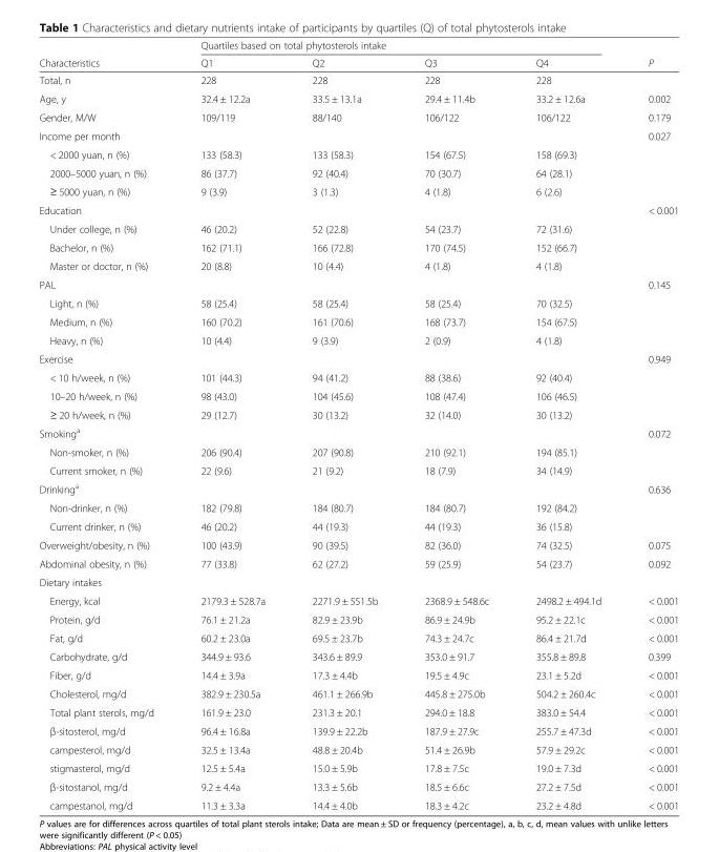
<table><thead><tr><td rowspan="2">Characteristics</td><td colspan="4">Quartiles based on total phytosterols intake</td><td rowspan="2">P</td></tr><tr><td>Q1</td><td>Q2</td><td>Q3</td><td>Q4</td></tr></thead><tbody><tr><td>Total, n</td><td>228</td><td>228</td><td>228</td><td>228</td><td></td></tr><tr><td>Age, y</td><td>32.4 ± 12.2a</td><td>33.5 ± 13.1a</td><td>29.4 ± 11.4b</td><td>33.2 ± 12.6a</td><td>0.002</td></tr><tr><td>Gender, M/W</td><td>109/119</td><td>88/140</td><td>106/122</td><td>106/122</td><td>0.179</td></tr><tr><td>Income per month</td><td></td><td></td><td></td><td></td><td>0.027</td></tr><tr><td>&lt; 2000 yuan, n (%)</td><td>133 (58.3)</td><td>133 (58.3)</td><td>154 (67.5)</td><td>158 (69.3)</td><td></td></tr><tr><td>2000–5000 yuan, n (%)</td><td>86 (37.7)</td><td>92 (40.4)</td><td>70 (30.7)</td><td>64 (28.1)</td><td></td></tr><tr><td>≥ 5000 yuan, n (%)</td><td>9 (3.9)</td><td>3 (1.3)</td><td>4 (1.8)</td><td>6 (2.6)</td><td></td></tr><tr><td>Education</td><td></td><td></td><td></td><td></td><td>&lt; 0.001</td></tr><tr><td>Under college, n (%)</td><td>46 (20.2)</td><td>52 (22.8)</td><td>54 (23.7)</td><td>72 (31.6)</td><td></td></tr><tr><td>Bachelor, n (%)</td><td>162 (71.1)</td><td>166 (72.8)</td><td>170 (74.5)</td><td>152 (66.7)</td><td></td></tr><tr><td>Master or doctor, n (%)</td><td>20 (8.8)</td><td>10 (4.4)</td><td>4 (1.8)</td><td>4 (1.8)</td><td></td></tr><tr><td>PAL</td><td></td><td></td><td></td><td></td><td>0.145</td></tr><tr><td>Light, n (%)</td><td>58 (25.4)</td><td>58 (25.4)</td><td>58 (25.4)</td><td>70 (32.5)</td><td></td></tr><tr><td>Medium, n (%)</td><td>160 (70.2)</td><td>161 (70.6)</td><td>168 (73.7)</td><td>154 (67.5)</td><td></td></tr><tr><td>Heavy, n (%)</td><td>10 (4.4)</td><td>9 (3.9)</td><td>2 (0.9)</td><td>4 (1.8)</td><td></td></tr><tr><td>Exercise</td><td></td><td></td><td></td><td></td><td>0.949</td></tr><tr><td>&lt; 10 h/week, n (%)</td><td>101 (44.3)</td><td>94 (41.2)</td><td>88 (38.6)</td><td>92 (40.4)</td><td></td></tr><tr><td>10–20 h/week, n (%)</td><td>98 (43.0)</td><td>104 (45.6)</td><td>108 (47.4)</td><td>106 (46.5)</td><td></td></tr><tr><td>≥ 20 h/week, n (%)</td><td>29 (12.7)</td><td>30 (13.2)</td><td>32 (14.0)</td><td>30 (13.2)</td><td></td></tr><tr><td>Smoking<sup>a</sup></td><td></td><td></td><td></td><td></td><td>0.072</td></tr><tr><td>Non-smoker, n (%)</td><td>206 (90.4)</td><td>207 (90.8)</td><td>210 (92.1)</td><td>194 (85.1)</td><td></td></tr><tr><td>Current smoker, n (%)</td><td>22 (9.6)</td><td>21 (9.2)</td><td>18 (7.9)</td><td>34 (14.9)</td><td></td></tr><tr><td>Drinking<sup>a</sup></td><td></td><td></td><td></td><td></td><td>0.636</td></tr><tr><td>Non-drinker, n (%)</td><td>182 (79.8)</td><td>184 (80.7)</td><td>184 (80.7)</td><td>192 (84.2)</td><td></td></tr><tr><td>Current drinker, n (%)</td><td>46 (20.2)</td><td>44 (19.3)</td><td>44 (19.3)</td><td>36 (15.8)</td><td></td></tr><tr><td>Overweight/obesity, n (%)</td><td>100 (43.9)</td><td>90 (39.5)</td><td>82 (36.0)</td><td>74 (32.5)</td><td>0.075</td></tr><tr><td>Abdominal obesity, n (%)</td><td>77 (33.8)</td><td>62 (27.2)</td><td>59 (25.9)</td><td>54 (23.7)</td><td>0.092</td></tr><tr><td colspan="6">Dietary intakes</td></tr><tr><td>Energy, kcal</td><td>2179.3 ± 528.7a</td><td>2271.9 ± 551.5b</td><td>2368.9 ± 548.6c</td><td>2498.2 ± 494.1d</td><td>&lt; 0.001</td></tr><tr><td>Protein, g/d</td><td>76.1 ± 21.2a</td><td>82.9 ± 23.9b</td><td>86.9 ± 24.9b</td><td>95.2 ± 22.1c</td><td>&lt; 0.001</td></tr><tr><td>Fat, g/d</td><td>60.2 ± 23.0a</td><td>69.5 ± 23.7b</td><td>74.3 ± 24.7c</td><td>86.4 ± 21.7d</td><td>&lt; 0.001</td></tr><tr><td>Carbohydrate, g/d</td><td>344.9 ± 93.6</td><td>343.6 ± 89.9</td><td>353.0 ± 91.7</td><td>355.8 ± 89.8</td><td>0.399</td></tr><tr><td>Fiber, g/d</td><td>14.4 ± 3.9a</td><td>17.3 ± 4.4b</td><td>19.5 ± 4.9c</td><td>23.1 ± 5.2d</td><td>&lt; 0.001</td></tr><tr><td>Cholesterol, mg/d</td><td>382.9 ± 230.5a</td><td>461.1 ± 266.9b</td><td>445.8 ± 275.0b</td><td>504.2 ± 260.4c</td><td>&lt; 0.001</td></tr><tr><td>Total plant sterols, mg/d</td><td>161.9 ± 23.0</td><td>231.3 ± 20.1</td><td>294.0 ± 18.8</td><td>383.0 ± 54.4</td><td>&lt; 0.001</td></tr><tr><td>β-sitosterol, mg/d</td><td>96.4 ± 16.8a</td><td>139.9 ± 22.2b</td><td>187.9 ± 27.9c</td><td>255.7 ± 47.3d</td><td>&lt; 0.001</td></tr><tr><td>campesterol, mg/d</td><td>32.5 ± 13.4a</td><td>48.8 ± 20.4b</td><td>51.4 ± 26.9b</td><td>57.9 ± 29.2c</td><td>&lt; 0.001</td></tr><tr><td>stigmasterol, mg/d</td><td>12.5 ± 5.4a</td><td>15.0 ± 5.9b</td><td>17.8 ± 7.5c</td><td>19.0 ± 7.3d</td><td>&lt; 0.001</td></tr><tr><td>β-sitostanol, mg/d</td><td>9.2 ± 4.4a</td><td>13.3 ± 5.6b</td><td>18.5 ± 6.6c</td><td>27.2 ± 7.5d</td><td>&lt; 0.001</td></tr><tr><td>campestanol, mg/d</td><td>11.3 ± 3.3a</td><td>14.4 ± 4.0b</td><td>18.3 ± 4.2c</td><td>23.2 ± 4.8d</td><td>&lt; 0.001</td></tr></tbody></table>